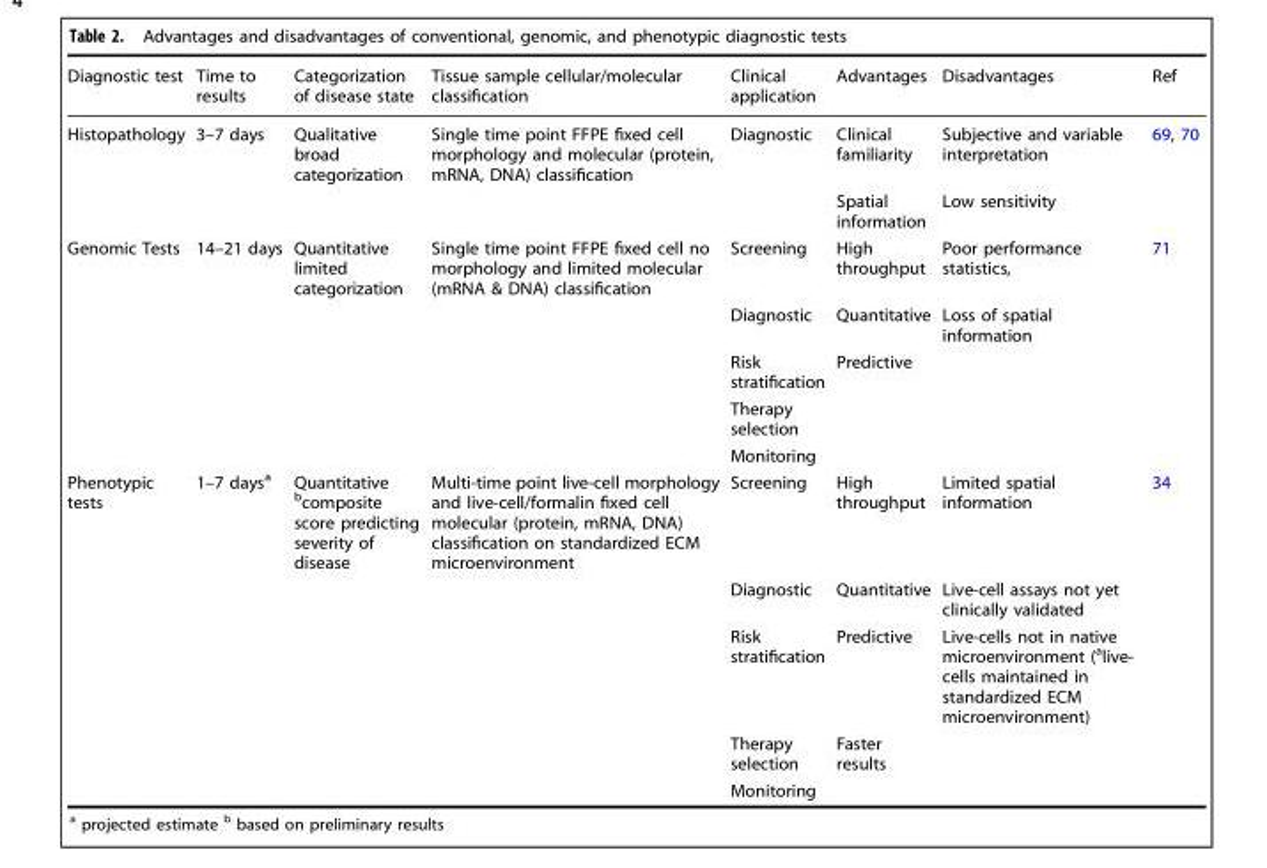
<table><thead><tr><td>Diagnostic test</td><td>Time to results</td><td>Categorization of disease state</td><td>Tissue sample cellular/molecular classification</td><td>Clinical application</td><td>Advantages</td><td>Disadvantages</td><td>Ref</td></tr></thead><tbody><tr><td rowspan="2">Histopathology</td><td>3–7 days</td><td>Qualitative broad categorization</td><td>Single time point FFPE fixed cell morphology and molecular (protein, mRNA, DNA) classification</td><td>Diagnostic</td><td>Clinical familiarity</td><td>Subjective and variable interpretation</td><td>69, 70</td></tr><tr><td></td><td></td><td></td><td></td><td>Spatial information</td><td>Low sensitivity</td><td></td></tr><tr><td rowspan="5">Genomic Tests</td><td>14–21 days</td><td>Quantitative limited categorization</td><td>Single time point FFPE fixed cell no morphology and limited molecular (mRNA &amp; DNA) classification</td><td>Screening</td><td>High throughput</td><td>Poor performance statistics,</td><td>71</td></tr><tr><td></td><td></td><td></td><td>Diagnostic</td><td>Quantitative</td><td>Loss of spatial information</td><td></td></tr><tr><td></td><td></td><td></td><td>Risk stratification</td><td>Predictive</td><td></td><td></td></tr><tr><td></td><td></td><td></td><td>Therapy selection</td><td></td><td></td><td></td></tr><tr><td></td><td></td><td></td><td>Monitoring</td><td></td><td></td><td></td></tr><tr><td rowspan="5">Phenotypic tests</td><td>1–7 days<sup>a</sup></td><td>Quantitative <sup>b</sup>composite score predicting severity of disease</td><td>Multi-time point live-cell morphology and live-cell/formalin fixed cell molecular (protein, mRNA, DNA) classification on standardized ECM microenvironment</td><td>Screening</td><td>High throughput</td><td>Limited spatial information</td><td>34</td></tr><tr><td></td><td></td><td></td><td>Diagnostic</td><td>Quantitative</td><td>Live-cell assays not yet clinically validated</td><td></td></tr><tr><td></td><td></td><td></td><td>Risk stratification</td><td>Predictive</td><td>Live-cells not in native microenvironment (<sup>a</sup>live- cells maintained in standardized ECM microenvironment)</td><td></td></tr><tr><td></td><td></td><td></td><td>Therapy selection</td><td>Faster results</td><td></td><td></td></tr><tr><td></td><td></td><td></td><td>Monitoring</td><td></td><td></td><td></td></tr></tbody></table>